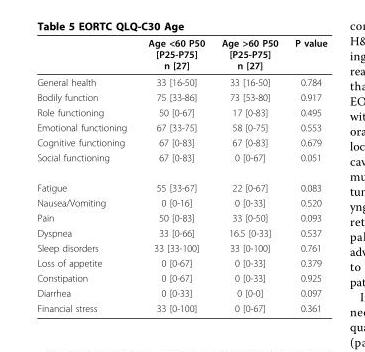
<table><thead><tr><td></td><td>Age &lt;60 P50 [P25-P75] n [27]</td><td>Age &gt;60 P50 [P25-P75] n [27]</td><td>P value</td></tr></thead><tbody><tr><td>General health</td><td>33 [16-50]</td><td>33 [16-50]</td><td>0.784</td></tr><tr><td>Bodily function</td><td>75 [33-86]</td><td>73 [53-80]</td><td>0.917</td></tr><tr><td>Role functioning</td><td>50 [0-67]</td><td>17 [0-83]</td><td>0.495</td></tr><tr><td>Emotional functioning</td><td>67 [33-75]</td><td>58 [0-75]</td><td>0.553</td></tr><tr><td>Cognitive functioning</td><td>67 [0-83]</td><td>67 [0-83]</td><td>0.679</td></tr><tr><td>Social functioning</td><td>67 [0-83]</td><td>0 [0-67]</td><td>0.051</td></tr><tr><td>Fatigue</td><td>55 [33-67]</td><td>22 [0-67]</td><td>0.083</td></tr><tr><td>Nausea/Vomiting</td><td>0 [0-16]</td><td>0 [0-33]</td><td>0.520</td></tr><tr><td>Pain</td><td>50 [0-83]</td><td>33 [0-50]</td><td>0.093</td></tr><tr><td>Dyspnea</td><td>33 [0-66]</td><td>16.5 [0-33]</td><td>0.537</td></tr><tr><td>Sleep disorders</td><td>33 [33-100]</td><td>33 [0-100]</td><td>0.761</td></tr><tr><td>Loss of appetite</td><td>0 [0-67]</td><td>0 [0-33]</td><td>0.379</td></tr><tr><td>Constipation</td><td>0 [0-67]</td><td>0 [0-33]</td><td>0.925</td></tr><tr><td>Diarrhea</td><td>0 [0-33]</td><td>0 [0-0]</td><td>0.097</td></tr><tr><td>Financial stress</td><td>33 [0-100]</td><td>0 [0-67]</td><td>0.361</td></tr></tbody></table>